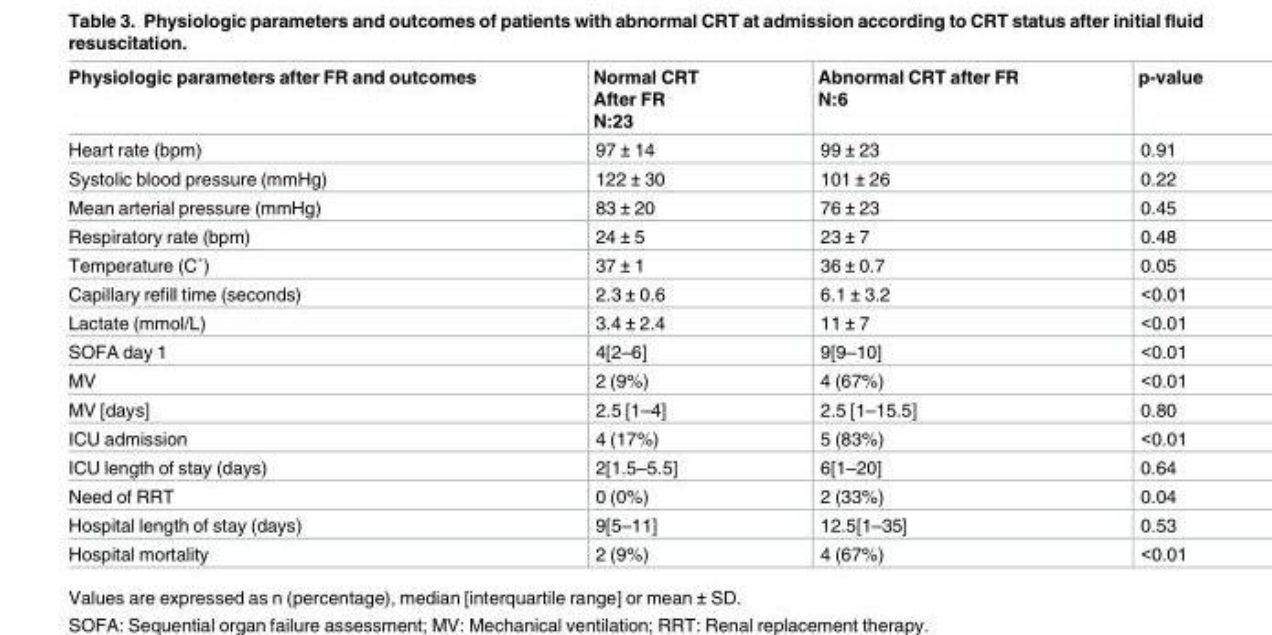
<table><thead><tr><td>Physiologic parameters after FR and outcomes</td><td>Normal CRT After FR N:23</td><td>Abnormal CRT after FR N:6</td><td>p-value</td></tr></thead><tbody><tr><td>Heart rate (bpm)</td><td>97 ± 14</td><td>99 ± 23</td><td>0.91</td></tr><tr><td>Systolic blood pressure (mmHg)</td><td>122 ± 30</td><td>101 ± 26</td><td>0.22</td></tr><tr><td>Mean arterial pressure (mmHg)</td><td>83 ± 20</td><td>76 ± 23</td><td>0.45</td></tr><tr><td>Respiratory rate (bpm)</td><td>24 ± 5</td><td>23 ± 7</td><td>0.48</td></tr><tr><td>Temperature (C˚)</td><td>37 ± 1</td><td>36 ± 0.7</td><td>0.05</td></tr><tr><td>Capillary refill time (seconds)</td><td>2.3 ± 0.6</td><td>6.1 ± 3.2</td><td>&lt;0.01</td></tr><tr><td>Lactate (mmol/L)</td><td>3.4 ± 2.4</td><td>11 ± 7</td><td>&lt;0.01</td></tr><tr><td>SOFA day 1</td><td>4[2–6]</td><td>9[9–10]</td><td>&lt;0.01</td></tr><tr><td>MV</td><td>2 (9%)</td><td>4 (67%)</td><td>&lt;0.01</td></tr><tr><td>MV [days]</td><td>2.5 [1–4]</td><td>2.5 [1–15.5]</td><td>0.80</td></tr><tr><td>ICU admission</td><td>4 (17%)</td><td>5 (83%)</td><td>&lt;0.01</td></tr><tr><td>ICU length of stay (days)</td><td>2[1.5–5.5]</td><td>6[1–20]</td><td>0.64</td></tr><tr><td>Need of RRT</td><td>0 (0%)</td><td>2 (33%)</td><td>0.04</td></tr><tr><td>Hospital length of stay (days)</td><td>9[5–11]</td><td>12.5[1–35]</td><td>0.53</td></tr><tr><td>Hospital mortality</td><td>2 (9%)</td><td>4 (67%)</td><td>&lt;0.01</td></tr></tbody></table>